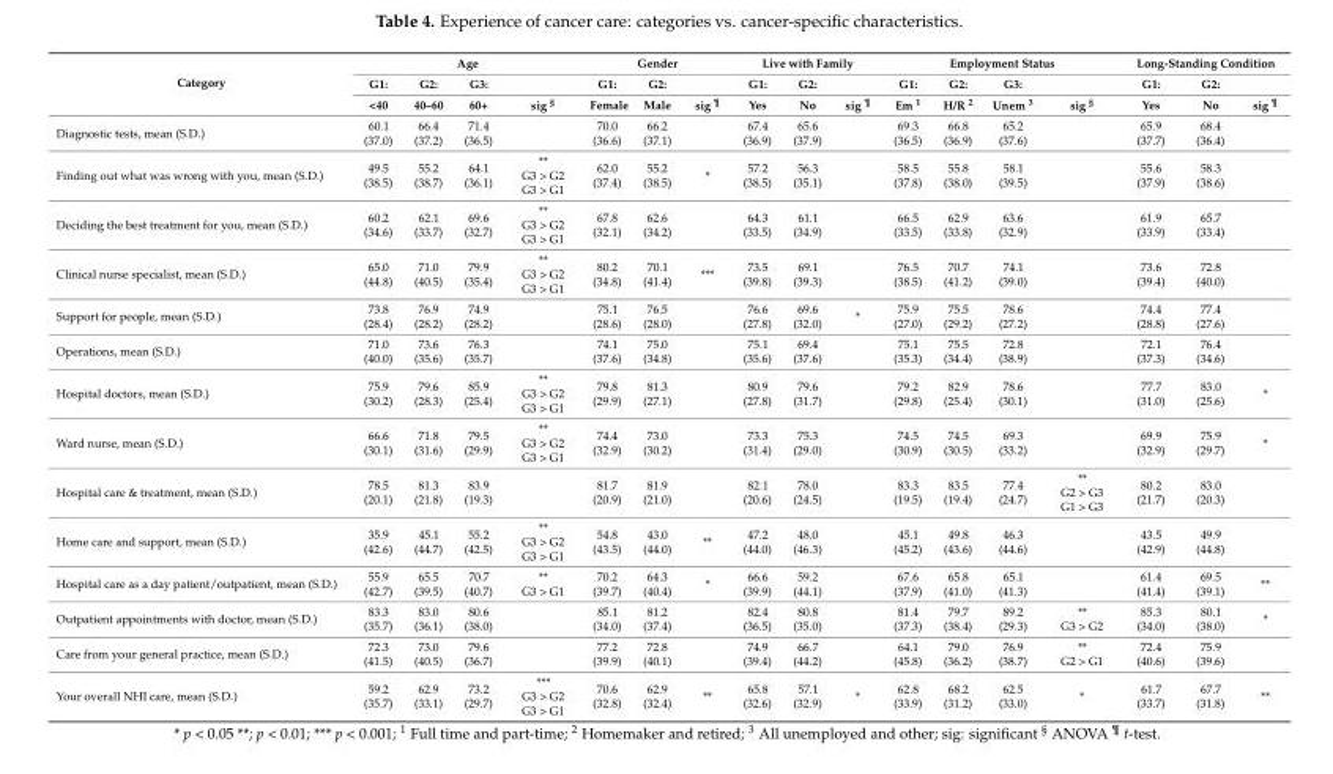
<table><thead><tr><td rowspan="3">Category</td><td colspan="4">Age</td><td colspan="3">Gender</td><td colspan="3">Live with Family</td><td colspan="4">Employment Status</td><td colspan="3">Long-Standing Condition</td></tr><tr><td rowspan="2">G1: &lt;40</td><td rowspan="2">G2: 40–60</td><td rowspan="2">G3: 60+</td><td rowspan="2">sig <sup>§</sup></td><td rowspan="2">G1: Female</td><td rowspan="2">G2: Male</td><td rowspan="2">sig <sup>¶</sup></td><td rowspan="2">G1: Yes</td><td rowspan="2">G2: No</td><td rowspan="2">sig <sup>¶</sup></td><td rowspan="2">G1: Em <sup>1</sup></td><td rowspan="2">G2: H/R <sup>2</sup></td><td rowspan="2">G3: Unem <sup>3</sup></td><td rowspan="2">sig <sup>§</sup></td><td rowspan="2">G1: Yes</td><td rowspan="2">G2: No</td><td rowspan="2">sig <sup>¶</sup></td></tr><tr></tr></thead><tbody><tr><td>Diagnostic tests, mean (S.D.)</td><td>60.1 (37.0)</td><td>66.4 (37.2)</td><td>71.4 (36.5)</td><td></td><td>70.0 (36.6)</td><td>66.2 (37.1)</td><td></td><td>67.4 (36.9)</td><td>65.6 (37.9)</td><td></td><td>69.3 (36.5)</td><td>66.8 (36.9)</td><td>65.2 (37.6)</td><td></td><td>65.9 (37.7)</td><td>68.4 (36.4)</td><td></td></tr><tr><td>Finding out what was wrong with you, mean (S.D.)</td><td>49.5 (38.5)</td><td>55.2 (38.7)</td><td>64.1 (36.1)</td><td>** G3 &gt; G2 G3 &gt; G1</td><td>62.0 (37.4)</td><td>55.2 (38.5)</td><td>*</td><td>57.2 (38.5)</td><td>56.3 (35.1)</td><td></td><td>58.5 (37.8)</td><td>55.8 (38.0)</td><td>58.1 (39.5)</td><td></td><td>55.6 (37.9)</td><td>58.3 (38.6)</td><td></td></tr><tr><td>Deciding the best treatment for you, mean (S.D.)</td><td>60.2 (34.6)</td><td>62.1 (33.7)</td><td>69.6 (32.7)</td><td>** G3 &gt; G2 G3 &gt; G1</td><td>67.8 (32.1)</td><td>62.6 (34.2)</td><td></td><td>64.3 (33.5)</td><td>61.1 (34.9)</td><td></td><td>66.5 (33.5)</td><td>62.9 (33.8)</td><td>63.6 (32.9)</td><td></td><td>61.9 (33.9)</td><td>65.7 (33.4)</td><td></td></tr><tr><td>Clinical nurse specialist, mean (S.D.)</td><td>65.0 (44.8)</td><td>71.0 (40.5)</td><td>79.9 (35.4)</td><td>** G3 &gt; G2 G3 &gt; G1</td><td>80.2 (34.8)</td><td>70.1 (41.4)</td><td>***</td><td>73.5 (39.8)</td><td>69.1 (39.3)</td><td></td><td>76.5 (38.5)</td><td>70.7 (41.2)</td><td>74.1 (39.0)</td><td></td><td>73.6 (39.4)</td><td>72.8 (40.0)</td><td></td></tr><tr><td>Support for people, mean (S.D.)</td><td>73.8 (28.4)</td><td>76.9 (28.2)</td><td>74.9 (28.2)</td><td></td><td>75.1 (28.6)</td><td>76.5 (28.0)</td><td></td><td>76.6 (27.8)</td><td>69.6 (32.0)</td><td>*</td><td>75.9 (27.0)</td><td>75.5 (29.2)</td><td>78.6 (27.2)</td><td></td><td>74.4 (28.8)</td><td>77.4 (27.6)</td><td></td></tr><tr><td>Operations, mean (S.D.)</td><td>71.0 (40.0)</td><td>73.6 (35.6)</td><td>76.3 (35.7)</td><td></td><td>74.1 (37.6)</td><td>75.0 (34.8)</td><td></td><td>75.1 (35.6)</td><td>69.4 (37.6)</td><td></td><td>75.1 (35.3)</td><td>75.5 (34.4)</td><td>72.8 (38.9)</td><td></td><td>72.1 (37.3)</td><td>76.4 (34.6)</td><td></td></tr><tr><td>Hospital doctors, mean (S.D.)</td><td>75.9 (30.2)</td><td>79.6 (28.3)</td><td>85.9 (25.4)</td><td>** G3 &gt; G2 G3 &gt; G1</td><td>79.8 (29.9)</td><td>81.3 (27.1)</td><td></td><td>80.9 (27.8)</td><td>79.6 (31.7)</td><td></td><td>79.2 (29.8)</td><td>82.9 (25.4)</td><td>78.6 (30.1)</td><td></td><td>77.7 (31.0)</td><td>83.0 (25.6)</td><td>*</td></tr><tr><td>Ward nurse, mean (S.D.)</td><td>66.6 (30.1)</td><td>71.8 (31.6)</td><td>79.5 (29.9)</td><td>** G3 &gt; G2 G3 &gt; G1</td><td>74.4 (32.9)</td><td>73.0 (30.2)</td><td></td><td>73.3 (31.4)</td><td>75.3 (29.0)</td><td></td><td>74.5 (30.9)</td><td>74.5 (30.5)</td><td>69.3 (33.2)</td><td></td><td>69.9 (32.9)</td><td>75.9 (29.7)</td><td>*</td></tr><tr><td>Hospital care &amp; treatment, mean (S.D.)</td><td>78.5 (20.1)</td><td>81.3 (21.8)</td><td>83.9 (19.3)</td><td></td><td>81.7 (20.9)</td><td>81.9 (21.0)</td><td></td><td>82.1 (20.6)</td><td>78.0 (24.5)</td><td></td><td>83.3 (19.5)</td><td>83.5 (19.4)</td><td>77.4 (24.7)</td><td>** G2 &gt; G3 G1 &gt; G3</td><td>80.2 (21.7)</td><td>83.0 (20.3)</td><td></td></tr><tr><td>Home care and support, mean (S.D.)</td><td>35.9 (42.6)</td><td>45.1 (44.7)</td><td>55.2 (42.5)</td><td>** G3 &gt; G2 G3 &gt; G1</td><td>54.8 (43.5)</td><td>43.0 (44.0)</td><td>**</td><td>47.2 (44.0)</td><td>48.0 (46.3)</td><td></td><td>45.1 (45.2)</td><td>49.8 (43.6)</td><td>46.3 (44.6)</td><td></td><td>43.5 (42.9)</td><td>49.9 (44.8)</td><td></td></tr><tr><td>Hospital care as a day patient/outpatient, mean (S.D.)</td><td>55.9 (42.7)</td><td>65.5 (39.5)</td><td>70.7 (40.7)</td><td>** G3 &gt; G1</td><td>70.2 (39.7)</td><td>64.3 (40.4)</td><td>*</td><td>66.6 (39.9)</td><td>59.2 (44.1)</td><td></td><td>67.6 (37.9)</td><td>65.8 (41.0)</td><td>65.1 (41.3)</td><td></td><td>61.4 (41.4)</td><td>69.5 (39.1)</td><td>**</td></tr><tr><td>Outpatient appointments with doctor, mean (S.D.)</td><td>83.3 (35.7)</td><td>83.0 (36.1)</td><td>80.6 (38.0)</td><td></td><td>85.1 (34.0)</td><td>81.2 (37.4)</td><td></td><td>82.4 (36.5)</td><td>80.8 (35.0)</td><td></td><td>81.4 (37.3)</td><td>79.7 (38.4)</td><td>89.2 (29.3)</td><td>** G3 &gt; G2</td><td>85.3 (34.0)</td><td>80.1 (38.0)</td><td>*</td></tr><tr><td>Care from your general practice, mean (S.D.)</td><td>72.3 (41.5)</td><td>73.0 (40.5)</td><td>79.6 (36.7)</td><td></td><td>77.2 (39.9)</td><td>72.8 (40.1)</td><td></td><td>74.9 (39.4)</td><td>66.7 (44.2)</td><td></td><td>64.1 (45.8)</td><td>79.0 (36.2)</td><td>76.9 (38.7)</td><td>** G2 &gt; G1</td><td>72.4 (40.6)</td><td>75.9 (39.6)</td><td></td></tr><tr><td>Your overall NHI care, mean (S.D.)</td><td>59.2 (35.7)</td><td>62.9 (33.1)</td><td>73.2 (29.7)</td><td>*** G3 &gt; G2 G3 &gt; G1</td><td>70.6 (32.8)</td><td>62.9 (32.4)</td><td>**</td><td>65.8 (32.6)</td><td>57.1 (32.9)</td><td>*</td><td>62.8 (33.9)</td><td>68.2 (31.2)</td><td>62.5 (33.0)</td><td>*</td><td>61.7 (33.7)</td><td>67.7 (31.8)</td><td>**</td></tr></tbody></table>